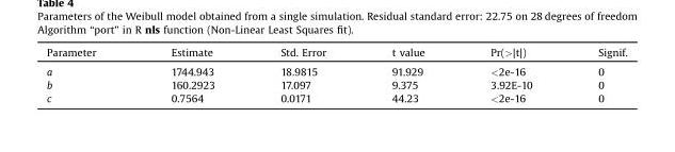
<table><thead><tr><td>Parameter</td><td>Estimate</td><td>Std. Error</td><td>t value</td><td>Pr(&gt;|t|)</td><td>Signif.</td></tr></thead><tbody><tr><td>a</td><td>1744.943</td><td>18.9815</td><td>91.929</td><td>&lt;2e-16</td><td>0</td></tr><tr><td>b</td><td>160.2923</td><td>17.097</td><td>9.375</td><td>3.92E-10</td><td>0</td></tr><tr><td>c</td><td>0.7564</td><td>0.0171</td><td>44.23</td><td>&lt;2e-16</td><td>0</td></tr></tbody></table>